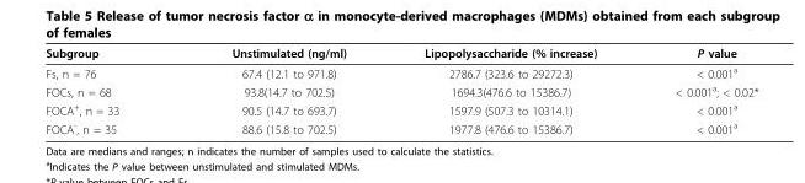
<table><thead><tr><td>Subgroup</td><td>Unstimulated (ng/ml)</td><td>Lipopolysaccharide (% increase)</td><td>P value</td></tr></thead><tbody><tr><td>Fs, n = 76</td><td>67.4 (12.1 to 971.8)</td><td>2786.7 (323.6 to 29272.3)</td><td>&lt; 0.001<sup>a</sup></td></tr><tr><td>FOCs, n = 68</td><td>93.8(14.7 to 702.5)</td><td>1694.3(476.6 to 15386.7)</td><td>&lt; 0.001<sup>a</sup>; &lt; 0.02*</td></tr><tr><td>FOCA<sup>+</sup>, n = 33</td><td>90.5 (14.7 to 693.7)</td><td>1597.9 (507.3 to 10314.1)</td><td>&lt; 0.001<sup>a</sup></td></tr><tr><td>FOCA<sup>-</sup>, n = 35</td><td>88.6 (15.8 to 702.5)</td><td>1977.8 (476.6 to 15386.7)</td><td>&lt; 0.001<sup>a</sup></td></tr></tbody></table>